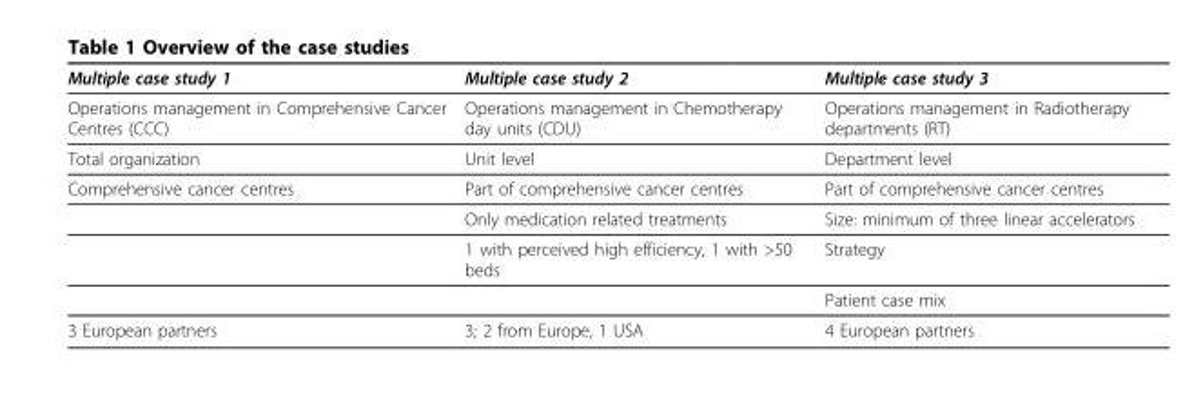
<table><thead><tr><td>Multiple case study 1</td><td>Multiple case study 2</td><td>Multiple case study 3</td></tr></thead><tbody><tr><td>Operations management in Comprehensive Cancer Centres (CCC)</td><td>Operations management in Chemotherapy day units (CDU)</td><td>Operations management in Radiotherapy departments (RT)</td></tr><tr><td>Total organization</td><td>Unit level</td><td>Department level</td></tr><tr><td rowspan="4">Comprehensive cancer centres</td><td>Part of comprehensive cancer centres</td><td>Part of comprehensive cancer centres</td></tr><tr><td>Only medication related treatments</td><td>Size: minimum of three linear accelerators</td></tr><tr><td>1 with perceived high efficiency, 1 with &gt;50 beds</td><td>Strategy</td></tr><tr><td></td><td>Patient case mix</td></tr><tr><td>3 European partners</td><td>3; 2 from Europe, 1 USA</td><td>4 European partners</td></tr></tbody></table>